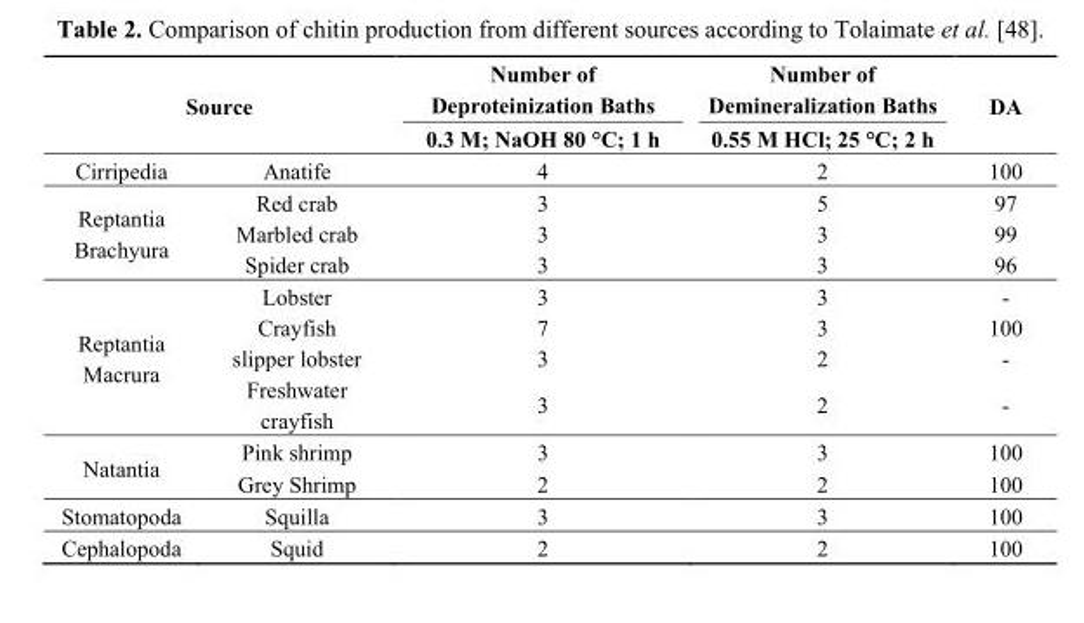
<table><thead><tr><td rowspan="2" colspan="2">Source</td><td rowspan="3">Number of Deproteinization Baths 0.3 M; NaOH 80 °C; 1 h 4</td><td rowspan="3">Number of Demineralization Baths 0.55 M HCl; 25 °C; 2 h 2</td><td rowspan="3">DA 100</td></tr><tr></tr><tr><td>Cirripedia</td><td>Anatife</td></tr></thead><tbody><tr><td rowspan="3">Reptantia Brachyura</td><td>Red crab</td><td>3</td><td>5</td><td>97</td></tr><tr><td>Marbled crab</td><td>3</td><td>3</td><td>99</td></tr><tr><td>Spider crab</td><td>3</td><td>3</td><td>96</td></tr><tr><td rowspan="4">Reptantia Macrura</td><td>Lobster</td><td>3</td><td>3</td><td>-</td></tr><tr><td>Crayfish</td><td>7</td><td>3</td><td>100</td></tr><tr><td>slipper lobster</td><td>3</td><td>2</td><td>-</td></tr><tr><td>Freshwater crayfish</td><td>3</td><td>2</td><td>-</td></tr><tr><td rowspan="2">Natantia</td><td>Pink shrimp</td><td>3</td><td>3</td><td>100</td></tr><tr><td>Grey Shrimp</td><td>2</td><td>2</td><td>100</td></tr><tr><td>Stomatopoda</td><td>Squilla</td><td>3</td><td>3</td><td>100</td></tr><tr><td>Cephalopoda</td><td>Squid</td><td>2</td><td>2</td><td>100</td></tr></tbody></table>